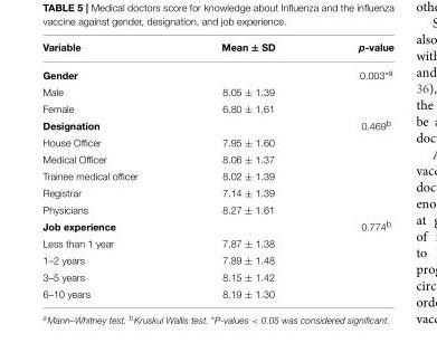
<table><thead><tr><td>Variable</td><td>Mean ± SD</td><td>p-value</td></tr></thead><tbody><tr><td>Gender</td><td></td><td>0.003<sup>*a</sup></td></tr><tr><td>Male</td><td>8.05 ± 1.39</td><td></td></tr><tr><td>Female</td><td>6.80 ± 1.61</td><td></td></tr><tr><td>Designation</td><td></td><td>0.469<sup>b</sup></td></tr><tr><td>House Officer</td><td>7.95 ± 1.60</td><td></td></tr><tr><td>Medical Officer</td><td>8.06 ± 1.37</td><td></td></tr><tr><td>Trainee medical officer</td><td>8.02 ± 1.39</td><td></td></tr><tr><td>Registrar</td><td>7.14 ± 1.39</td><td></td></tr><tr><td>Physicians</td><td>8.27 ± 1.61</td><td></td></tr><tr><td>Job experience</td><td></td><td>0.774<sup>b</sup></td></tr><tr><td>Less than 1 year</td><td>7.87 ± 1.38</td><td></td></tr><tr><td>1–2 years</td><td>7.89 ± 1.48</td><td></td></tr><tr><td>3–5 years</td><td>8.15 ± 1.42</td><td></td></tr><tr><td>6–10 years</td><td>8.19 ± 1.30</td><td></td></tr></tbody></table>